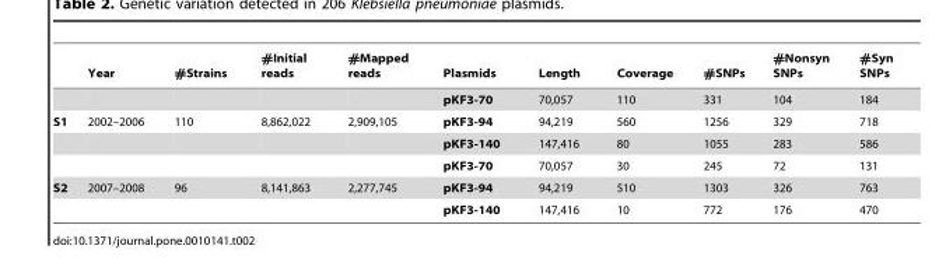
<table><thead><tr><td></td><td>Year</td><td>#Strains</td><td>#Initial reads</td><td>#Mapped reads</td><td>Plasmids</td><td>Length</td><td>Coverage</td><td>#SNPs</td><td>#Nonsyn SNPs</td><td>#Syn SNPs</td></tr></thead><tbody><tr><td></td><td></td><td></td><td></td><td></td><td>pKF3-70</td><td>70,057</td><td>110</td><td>331</td><td>104</td><td>184</td></tr><tr><td rowspan="3">S1</td><td>2002–2006</td><td>110</td><td>8,862,022</td><td>2,909,105</td><td>pKF3-94</td><td>94,219</td><td>560</td><td>1256</td><td>329</td><td>718</td></tr><tr><td></td><td></td><td></td><td></td><td>pKF3-140</td><td>147,416</td><td>80</td><td>1055</td><td>283</td><td>586</td></tr><tr><td></td><td></td><td></td><td></td><td>pKF3-70</td><td>70,057</td><td>30</td><td>245</td><td>72</td><td>131</td></tr><tr><td rowspan="2">S2</td><td>2007–2008</td><td>96</td><td>8,141,863</td><td>2,277,745</td><td>pKF3-94</td><td>94,219</td><td>510</td><td>1303</td><td>326</td><td>763</td></tr><tr><td></td><td></td><td></td><td></td><td>pKF3-140</td><td>147,416</td><td>10</td><td>772</td><td>176</td><td>470</td></tr></tbody></table>